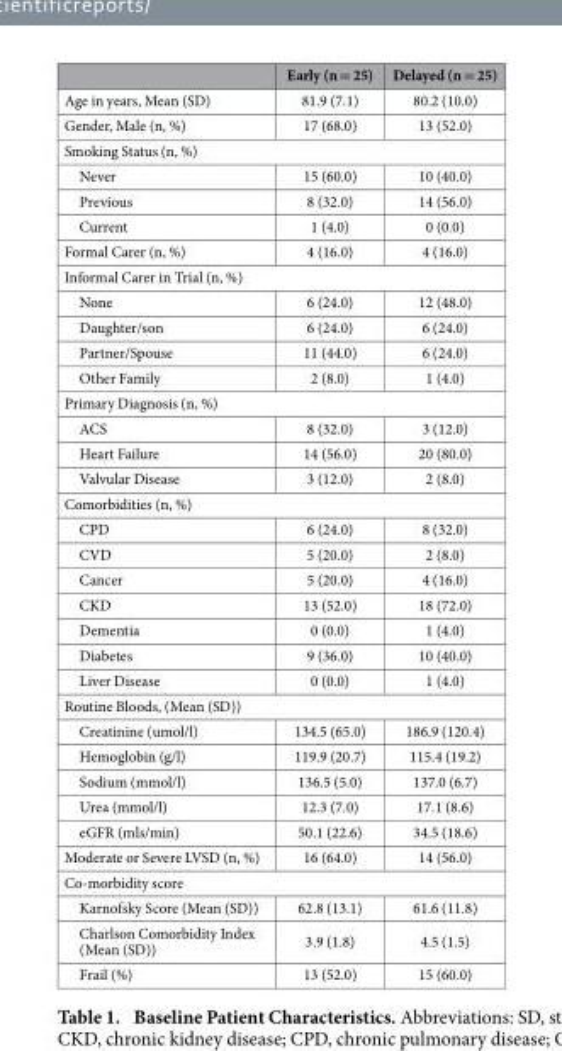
<table><thead><tr><td></td><td>Early (n = 25)</td><td>Delayed (n = 25)</td></tr></thead><tbody><tr><td>Age in years, Mean (SD)</td><td>81.9 (7.1)</td><td>80.2 (10.0)</td></tr><tr><td>Gender, Male (n, %)</td><td>17 (68.0)</td><td>13 (52.0)</td></tr><tr><td colspan="3">Smoking Status (n, %)</td></tr><tr><td>Never</td><td>15 (60.0)</td><td>10 (40.0)</td></tr><tr><td>Previous</td><td>8 (32.0)</td><td>14 (56.0)</td></tr><tr><td>Current</td><td>1 (4.0)</td><td>0 (0.0)</td></tr><tr><td>Formal Carer (n, %)</td><td>4 (16.0)</td><td>4 (16.0)</td></tr><tr><td colspan="3">Informal Carer in Trial (n, %)</td></tr><tr><td>None</td><td>6 (24.0)</td><td>12 (48.0)</td></tr><tr><td>Daughter/son</td><td>6 (24.0)</td><td>6 (24.0)</td></tr><tr><td>Partner/Spouse</td><td>11 (44.0)</td><td>6 (24.0)</td></tr><tr><td>Other Family</td><td>2 (8.0)</td><td>1 (4.0)</td></tr><tr><td colspan="3">Primary Diagnosis (n, %)</td></tr><tr><td>ACS</td><td>8 (32.0)</td><td>3 (12.0)</td></tr><tr><td>Heart Failure</td><td>14 (56.0)</td><td>20 (80.0)</td></tr><tr><td>Valvular Disease</td><td>3 (12.0)</td><td>2 (8.0)</td></tr><tr><td colspan="3">Comorbidities (n, %)</td></tr><tr><td>CPD</td><td>6 (24.0)</td><td>8 (32.0)</td></tr><tr><td>CVD</td><td>5 (20.0)</td><td>2 (8.0)</td></tr><tr><td>Cancer</td><td>5 (20.0)</td><td>4 (16.0)</td></tr><tr><td>CKD</td><td>13 (52.0)</td><td>18 (72.0)</td></tr><tr><td>Dementia</td><td>0 (0.0)</td><td>1 (4.0)</td></tr><tr><td>Diabetes</td><td>9 (36.0)</td><td>10 (40.0)</td></tr><tr><td>Liver Disease</td><td>0 (0.0)</td><td>1 (4.0)</td></tr><tr><td colspan="3">Routine Bloods, (Mean (SD))</td></tr><tr><td>Creatinine (umol/l)</td><td>134.5 (65.0)</td><td>186.9 (120.4)</td></tr><tr><td>Hemoglobin (g/l)</td><td>119.9 (20.7)</td><td>115.4 (19.2)</td></tr><tr><td>Sodium (mmol/l)</td><td>136.5 (5.0)</td><td>137.0 (6.7)</td></tr><tr><td>Urea (mmol/l)</td><td>12.3 (7.0)</td><td>17.1 (8.6)</td></tr><tr><td>eGFR (mls/min)</td><td>50.1 (22.6)</td><td>34.5 (18.6)</td></tr><tr><td>Moderate or Severe LVSD (n, %)</td><td>16 (64.0)</td><td>14 (56.0)</td></tr><tr><td colspan="3">Co-morbidity score</td></tr><tr><td>Karnofsky Score (Mean (SD))</td><td>62.8 (13.1)</td><td>61.6 (11.8)</td></tr><tr><td>Charlson Comorbidity Index (Mean (SD))</td><td>3.9 (1.8)</td><td>4.5 (1.5)</td></tr><tr><td>Frail (%)</td><td>13 (52.0)</td><td>15 (60.0)</td></tr></tbody></table>